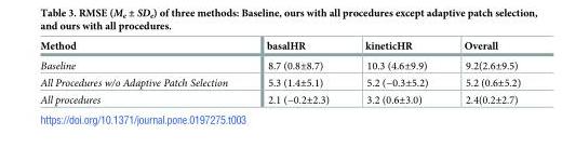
<table><thead><tr><td>Method</td><td>basalHR</td><td>kineticHR</td><td>Overall</td></tr></thead><tbody><tr><td>Baseline</td><td>8.7 (0.8±8.7)</td><td>10.3 (4.6±9.9)</td><td>9.2(2.6±9.5)</td></tr><tr><td>All Procedures w/o Adaptive Patch Selection</td><td>5.3 (1.4±5.1)</td><td>5.2 (−0.3±5.2)</td><td>5.2 (0.6±5.2)</td></tr><tr><td>All procedures</td><td>2.1 (−0.2±2.3)</td><td>3.2 (0.6±3.0)</td><td>2.4(0.2±2.7)</td></tr></tbody></table>